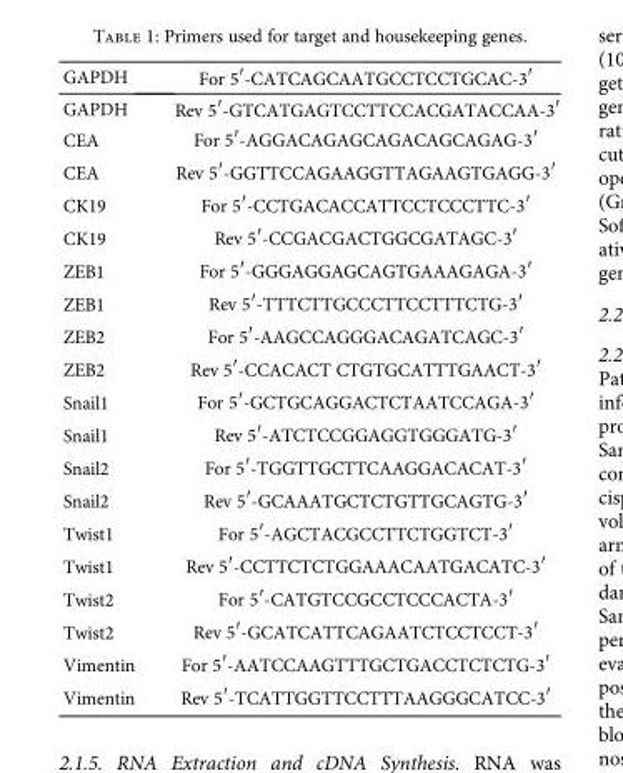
<table><thead><tr><td>GAPDH</td><td>For 5′-CATCAGCAATGCCTCCTGCAC-3′</td></tr></thead><tbody><tr><td>GAPDH</td><td>Rev 5′-GTCATGAGTCCTTCCACGATACCAA-3′</td></tr><tr><td>CEA</td><td>For 5′-AGGACAGAGCAGACAGCAGAG-3′</td></tr><tr><td>CEA</td><td>Rev 5′-GGTTCCAGAAGGTTAGAAGTGAGG-3′</td></tr><tr><td>CK19</td><td>For 5′-CCTGACACCATTCCTCCCTTC-3′</td></tr><tr><td>CK19</td><td>Rev 5′-CCGACGACTGGCGATAGC-3′</td></tr><tr><td>ZEB1</td><td>For 5′-GGGAGGAGCAGTGAAAGAGA-3′</td></tr><tr><td>ZEB1</td><td>Rev 5′-TTTCTTGCCCTTCCTTTCTG-3′</td></tr><tr><td>ZEB2</td><td>For 5′-AAGCCAGGGACAGATCAGC-3′</td></tr><tr><td>ZEB2</td><td>Rev 5′-CCACACT CTGTGCATTTGAACT-3′</td></tr><tr><td>Snail1</td><td>For 5′-GCTGCAGGACTCTAATCCAGA-3′</td></tr><tr><td>Snail1</td><td>Rev 5′-ATCTCCGGAGGTGGGATG-3′</td></tr><tr><td>Snail2</td><td>For 5′-TGGTTGCTTCAAGGACACAT-3′</td></tr><tr><td>Snail2</td><td>Rev 5′-GCAAATGCTCTGTTGCAGTG-3′</td></tr><tr><td>Twist1</td><td>For 5′-AGCTACGCCTTCTGGTCT-3′</td></tr><tr><td>Twist1</td><td>Rev 5′-CCTTCTCTGGAAACAATGACATC-3′</td></tr><tr><td>Twist2</td><td>For 5′-CATGTCCGCCTCCCACTA-3′</td></tr><tr><td>Twist2</td><td>Rev 5′-GCATCATTCAGAATCTCCTCCT-3′</td></tr><tr><td>Vimentin</td><td>For 5′-AATCCAAGTTTGCTGACCTCTCTG-3′</td></tr><tr><td>Vimentin</td><td>Rev 5′-TCATTGGTTCCTTTAAGGGCATCC-3′</td></tr></tbody></table>